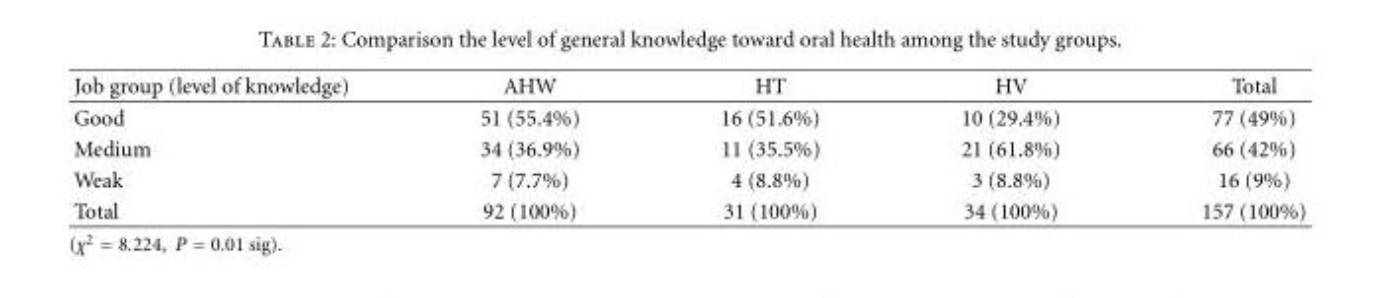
<table><thead><tr><td>Job group (level of knowledge)</td><td>AHW</td><td>HT</td><td>HV</td><td>Total</td></tr></thead><tbody><tr><td>Good</td><td>51 (55.4%)</td><td>16 (51.6%)</td><td>10 (29.4%)</td><td>77 (49%)</td></tr><tr><td>Medium</td><td>34 (36.9%)</td><td>11 (35.5%)</td><td>21 (61.8%)</td><td>66 (42%)</td></tr><tr><td>Weak</td><td>7 (7.7%)</td><td>4 (8.8%)</td><td>3 (8.8%)</td><td>16 (9%)</td></tr><tr><td>Total</td><td>92 (100%)</td><td>31 (100%)</td><td>34 (100%)</td><td>157 (100%)</td></tr></tbody></table>